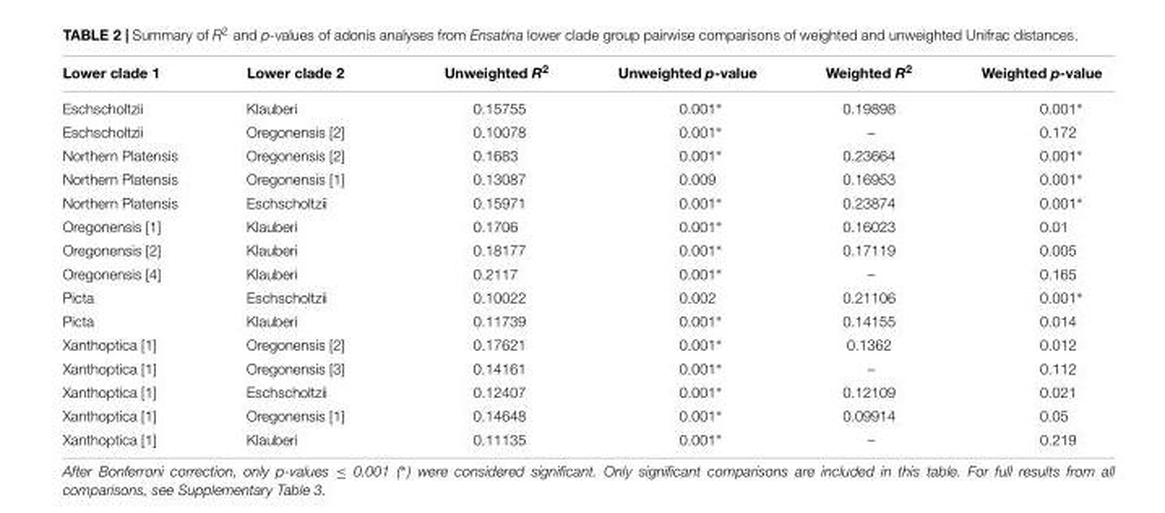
<table><thead><tr><td>Lower clade 1</td><td>Lower clade 2</td><td>Unweighted R<sup>2</sup></td><td>Unweighted p-value</td><td>Weighted R<sup>2</sup></td><td>Weighted p-value</td></tr></thead><tbody><tr><td>Eschscholtzii</td><td>Klauberi</td><td>0.15755</td><td>0.001∗</td><td>0.19898</td><td>0.001∗</td></tr><tr><td>Eschscholtzii</td><td>Oregonensis [2]</td><td>0.10078</td><td>0.001∗</td><td>–</td><td>0.172</td></tr><tr><td>Northern Platensis</td><td>Oregonensis [2]</td><td>0.1683</td><td>0.001∗</td><td>0.23664</td><td>0.001∗</td></tr><tr><td>Northern Platensis</td><td>Oregonensis [1]</td><td>0.13087</td><td>0.009</td><td>0.16953</td><td>0.001∗</td></tr><tr><td>Northern Platensis</td><td>Eschscholtzii</td><td>0.15971</td><td>0.001∗</td><td>0.23874</td><td>0.001∗</td></tr><tr><td>Oregonensis [1]</td><td>Klauberi</td><td>0.1706</td><td>0.001∗</td><td>0.16023</td><td>0.01</td></tr><tr><td>Oregonensis [2]</td><td>Klauberi</td><td>0.18177</td><td>0.001∗</td><td>0.17119</td><td>0.005</td></tr><tr><td>Oregonensis [4]</td><td>Klauberi</td><td>0.2117</td><td>0.001∗</td><td>–</td><td>0.165</td></tr><tr><td>Picta</td><td>Eschscholtzii</td><td>0.10022</td><td>0.002</td><td>0.21106</td><td>0.001∗</td></tr><tr><td>Picta</td><td>Klauberi</td><td>0.11739</td><td>0.001∗</td><td>0.14155</td><td>0.014</td></tr><tr><td>Xanthoptica [1]</td><td>Oregonensis [2]</td><td>0.17621</td><td>0.001∗</td><td>0.1362</td><td>0.012</td></tr><tr><td>Xanthoptica [1]</td><td>Oregonensis [3]</td><td>0.14161</td><td>0.001∗</td><td>–</td><td>0.112</td></tr><tr><td>Xanthoptica [1]</td><td>Eschscholtzii</td><td>0.12407</td><td>0.001∗</td><td>0.12109</td><td>0.021</td></tr><tr><td>Xanthoptica [1]</td><td>Oregonensis [1]</td><td>0.14648</td><td>0.001∗</td><td>0.09914</td><td>0.05</td></tr><tr><td>Xanthoptica [1]</td><td>Klauberi</td><td>0.11135</td><td>0.001∗</td><td>–</td><td>0.219</td></tr></tbody></table>